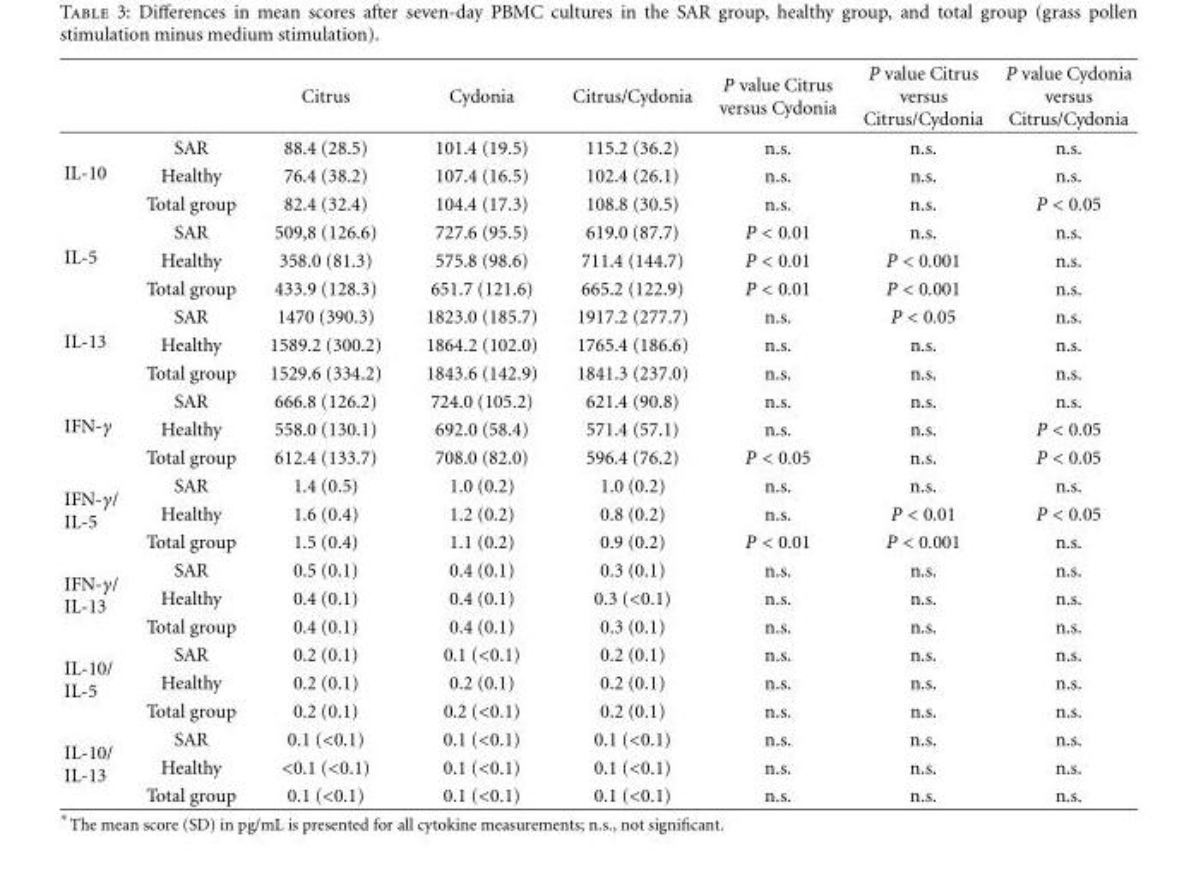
<table><thead><tr><td></td><td></td><td>Citrus</td><td>Cydonia</td><td>Citrus/Cydonia</td><td>P value Citrus versus Cydonia</td><td>P value Citrus versus Citrus/Cydonia</td><td>P value Cydonia versus Citrus/Cydonia</td></tr></thead><tbody><tr><td rowspan="3">IL-10</td><td>SAR</td><td>88.4 (28.5)</td><td>101.4 (19.5)</td><td>115.2 (36.2)</td><td>n.s.</td><td>n.s.</td><td>n.s.</td></tr><tr><td>Healthy</td><td>76.4 (38.2)</td><td>107.4 (16.5)</td><td>102.4 (26.1)</td><td>n.s.</td><td>n.s.</td><td>n.s.</td></tr><tr><td>Total group</td><td>82.4 (32.4)</td><td>104.4 (17.3)</td><td>108.8 (30.5)</td><td>n.s.</td><td>n.s.</td><td>P &lt; 0.05</td></tr><tr><td rowspan="3">IL-5</td><td>SAR</td><td>509,8 (126.6)</td><td>727.6 (95.5)</td><td>619.0 (87.7)</td><td>P &lt; 0.01</td><td>n.s.</td><td>n.s.</td></tr><tr><td>Healthy</td><td>358.0 (81.3)</td><td>575.8 (98.6)</td><td>711.4 (144.7)</td><td>P &lt; 0.01</td><td>P &lt; 0.001</td><td>n.s.</td></tr><tr><td>Total group</td><td>433.9 (128.3)</td><td>651.7 (121.6)</td><td>665.2 (122.9)</td><td>P &lt; 0.01</td><td>P &lt; 0.001</td><td>n.s.</td></tr><tr><td rowspan="3">IL-13</td><td>SAR</td><td>1470 (390.3)</td><td>1823.0 (185.7)</td><td>1917.2 (277.7)</td><td>n.s.</td><td>P &lt; 0.05</td><td>n.s.</td></tr><tr><td>Healthy</td><td>1589.2 (300.2)</td><td>1864.2 (102.0)</td><td>1765.4 (186.6)</td><td>n.s.</td><td>n.s.</td><td>n.s.</td></tr><tr><td>Total group</td><td>1529.6 (334.2)</td><td>1843.6 (142.9)</td><td>1841.3 (237.0)</td><td>n.s.</td><td>n.s.</td><td>n.s.</td></tr><tr><td rowspan="3">IFN-γ</td><td>SAR</td><td>666.8 (126.2)</td><td>724.0 (105.2)</td><td>621.4 (90.8)</td><td>n.s.</td><td>n.s.</td><td>n.s.</td></tr><tr><td>Healthy</td><td>558.0 (130.1)</td><td>692.0 (58.4)</td><td>571.4 (57.1)</td><td>n.s.</td><td>n.s.</td><td>P &lt; 0.05</td></tr><tr><td>Total group</td><td>612.4 (133.7)</td><td>708.0 (82.0)</td><td>596.4 (76.2)</td><td>P &lt; 0.05</td><td>n.s.</td><td>P &lt; 0.05</td></tr><tr><td rowspan="3">IFN-γ/ IL-5</td><td>SAR</td><td>1.4 (0.5)</td><td>1.0 (0.2)</td><td>1.0 (0.2)</td><td>n.s.</td><td>n.s.</td><td>n.s.</td></tr><tr><td>Healthy</td><td>1.6 (0.4)</td><td>1.2 (0.2)</td><td>0.8 (0.2)</td><td>n.s.</td><td>P &lt; 0.01</td><td>P &lt; 0.05</td></tr><tr><td>Total group</td><td>1.5 (0.4)</td><td>1.1 (0.2)</td><td>0.9 (0.2)</td><td>P &lt; 0.01</td><td>P &lt; 0.001</td><td>n.s.</td></tr><tr><td rowspan="3">IFN-γ/ IL-13</td><td>SAR</td><td>0.5 (0.1)</td><td>0.4 (0.1)</td><td>0.3 (0.1)</td><td>n.s.</td><td>n.s.</td><td>n.s.</td></tr><tr><td>Healthy</td><td>0.4 (0.1)</td><td>0.4 (0.1)</td><td>0.3 (&lt;0.1)</td><td>n.s.</td><td>n.s.</td><td>n.s.</td></tr><tr><td>Total group</td><td>0.4 (0.1)</td><td>0.4 (0.1)</td><td>0.3 (0.1)</td><td>n.s.</td><td>n.s.</td><td>n.s.</td></tr><tr><td rowspan="3">IL-10/ IL-5</td><td>SAR</td><td>0.2 (0.1)</td><td>0.1 (&lt;0.1)</td><td>0.2 (0.1)</td><td>n.s.</td><td>n.s.</td><td>n.s.</td></tr><tr><td>Healthy</td><td>0.2 (0.1)</td><td>0.2 (0.1)</td><td>0.2 (0.1)</td><td>n.s.</td><td>n.s.</td><td>n.s.</td></tr><tr><td>Total group</td><td>0.2 (0.1)</td><td>0.2 (&lt;0.1)</td><td>0.2 (0.1)</td><td>n.s.</td><td>n.s.</td><td>n.s.</td></tr><tr><td rowspan="3">IL-10/ IL-13</td><td>SAR</td><td>0.1 (&lt;0.1)</td><td>0.1 (&lt;0.1)</td><td>0.1 (&lt;0.1)</td><td>n.s.</td><td>n.s.</td><td>n.s.</td></tr><tr><td>Healthy</td><td>&lt;0.1 (&lt;0.1)</td><td>0.1 (&lt;0.1)</td><td>0.1 (&lt;0.1)</td><td>n.s.</td><td>n.s.</td><td>n.s.</td></tr><tr><td>Total group</td><td>0.1 (&lt;0.1)</td><td>0.1 (&lt;0.1)</td><td>0.1 (&lt;0.1)</td><td>n.s.</td><td>n.s.</td><td>n.s.</td></tr></tbody></table>